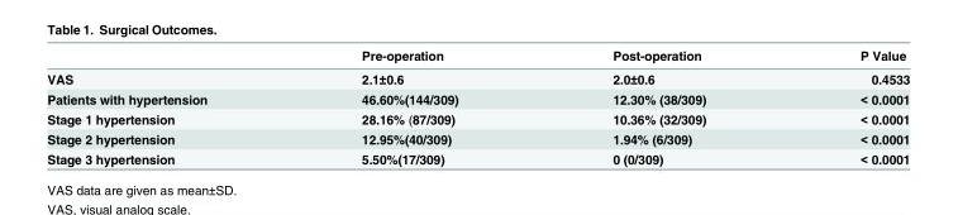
<table><thead><tr><td></td><td>Pre-operation</td><td>Post-operation</td><td>P Value</td></tr></thead><tbody><tr><td>VAS</td><td>2.1±0.6</td><td>2.0±0.6</td><td>0.4533</td></tr><tr><td>Patients with hypertension</td><td>46.60%(144/309)</td><td>12.30% (38/309)</td><td>&lt; 0.0001</td></tr><tr><td>Stage 1 hypertension</td><td>28.16% (87/309)</td><td>10.36% (32/309)</td><td>&lt; 0.0001</td></tr><tr><td>Stage 2 hypertension</td><td>12.95%(40/309)</td><td>1.94% (6/309)</td><td>&lt; 0.0001</td></tr><tr><td>Stage 3 hypertension</td><td>5.50%(17/309)</td><td>0 (0/309)</td><td>&lt; 0.0001</td></tr></tbody></table>